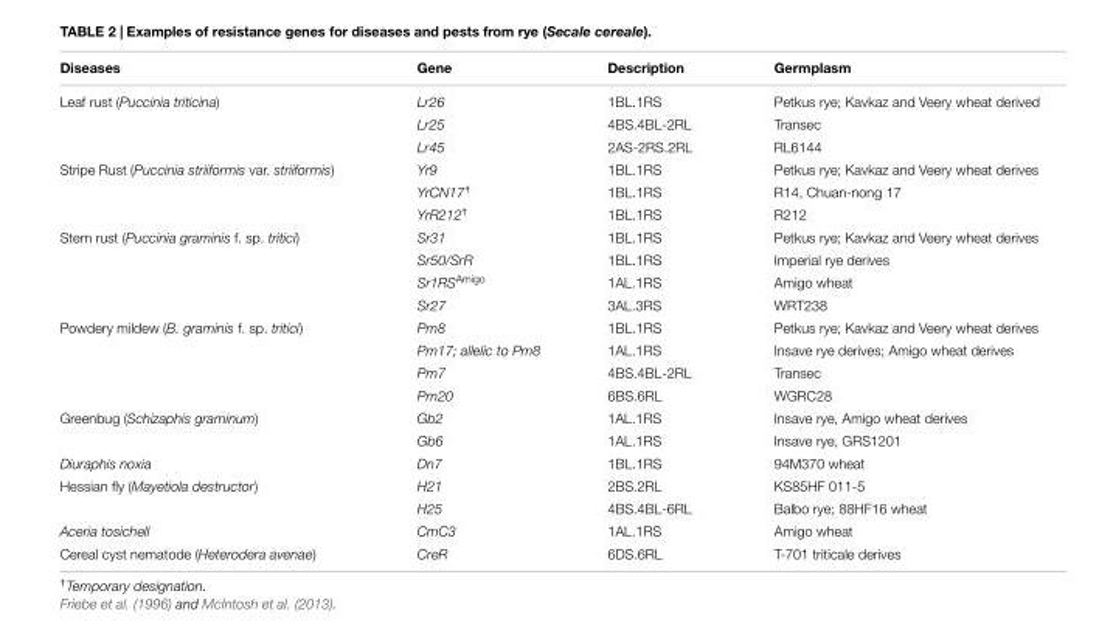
<table><thead><tr><td>Diseases</td><td>Gene</td><td>Description</td><td>Germplasm</td></tr></thead><tbody><tr><td rowspan="3">Leaf rust (Puccinia triticina)</td><td>Lr26</td><td>1BL.1RS</td><td>Petkus rye; Kavkaz and Veery wheat derived</td></tr><tr><td>Lr25</td><td>4BS.4BL-2RL</td><td>Transec</td></tr><tr><td>Lr45</td><td>2AS-2RS.2RL</td><td>RL6144</td></tr><tr><td rowspan="3">Stripe Rust (Puccinia striiformis var. striiformis)</td><td>Yr9</td><td>1BL.1RS</td><td>Petkus rye; Kavkaz and Veery wheat derives</td></tr><tr><td>YrCN17<sup>†</sup></td><td>1BL.1RS</td><td>R14, Chuan-nong 17</td></tr><tr><td>YrR212<sup>†</sup></td><td>1BL.1RS</td><td>R212</td></tr><tr><td rowspan="4">Stem rust (Puccinia graminis f. sp. tritici)</td><td>Sr31</td><td>1BL.1RS</td><td>Petkus rye; Kavkaz and Veery wheat derives</td></tr><tr><td>Sr50/SrR</td><td>1BL.1RS</td><td>Imperial rye derives</td></tr><tr><td>Sr1RS<sup>Amigo</sup></td><td>1AL.1RS</td><td>Amigo wheat</td></tr><tr><td>Sr27</td><td>3AL.3RS</td><td>WRT238</td></tr><tr><td rowspan="4">Powdery mildew (B. graminis f. sp. tritici)</td><td>Pm8</td><td>1BL.1RS</td><td>Petkus rye; Kavkaz and Veery wheat derives</td></tr><tr><td>Pm17; allelic to Pm8</td><td>1AL.1RS</td><td>Insave rye derives; Amigo wheat derives</td></tr><tr><td>Pm7</td><td>4BS.4BL-2RL</td><td>Transec</td></tr><tr><td>Pm20</td><td>6BS.6RL</td><td>WGRC28</td></tr><tr><td rowspan="2">Greenbug (Schizaphis graminum)</td><td>Gb2</td><td>1AL.1RS</td><td>Insave rye, Amigo wheat derives</td></tr><tr><td>Gb6</td><td>1AL.1RS</td><td>Insave rye, GRS1201</td></tr><tr><td>Diuraphis noxia</td><td>Dn7</td><td>1BL.1RS</td><td>94M370 wheat</td></tr><tr><td rowspan="2">Hessian fly (Mayetiola destructor)</td><td>H21</td><td>2BS.2RL</td><td>KS85HF 011-5</td></tr><tr><td>H25</td><td>4BS.4BL-6RL</td><td>Balbo rye; 88HF16 wheat</td></tr><tr><td>Aceria tosichell</td><td>CmC3</td><td>1AL.1RS</td><td>Amigo wheat</td></tr><tr><td>Cereal cyst nematode (Heterodera avenae)</td><td>CreR</td><td>6DS.6RL</td><td>T-701 triticale derives</td></tr></tbody></table>